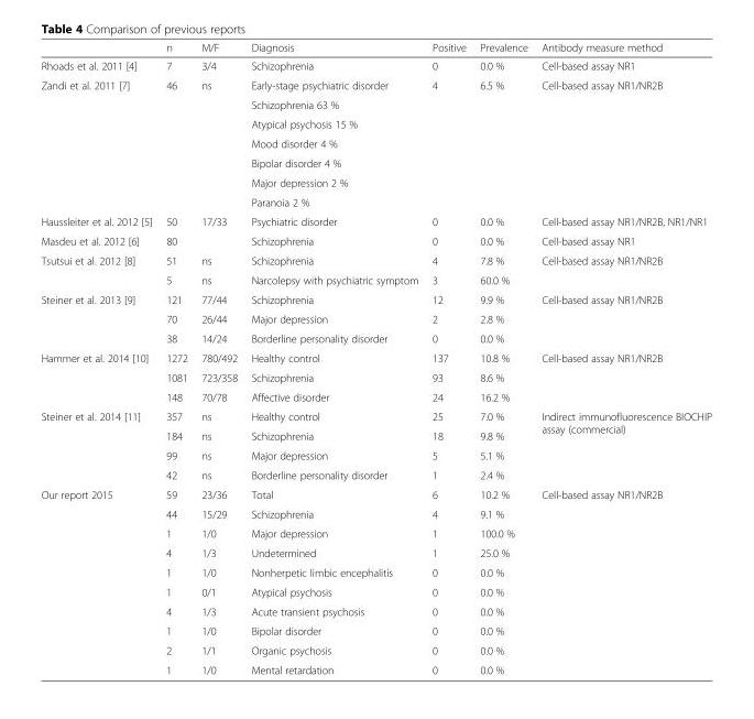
<table><thead><tr><td></td><td>n</td><td>M/F</td><td>Diagnosis</td><td>Positive</td><td>Prevalence</td><td>Antibody measure method</td></tr></thead><tbody><tr><td>Rhoads et al. 2011 [4]</td><td>7</td><td>3/4</td><td>Schizophrenia</td><td>0</td><td>0.0 %</td><td>Cell-based assay NR1</td></tr><tr><td rowspan="7">Zandi et al. 2011 [7]</td><td>46</td><td>ns</td><td>Early-stage psychiatric disorder</td><td>4</td><td>6.5 %</td><td>Cell-based assay NR1/NR2B</td></tr><tr><td></td><td></td><td>Schizophrenia 63 %</td><td></td><td></td><td></td></tr><tr><td></td><td></td><td>Atypical psychosis 15 %</td><td></td><td></td><td></td></tr><tr><td></td><td></td><td>Mood disorder 4 %</td><td></td><td></td><td rowspan="4"></td></tr><tr><td></td><td></td><td>Bipolar disorder 4 %</td><td></td><td></td></tr><tr><td></td><td></td><td>Major depression 2 %</td><td></td><td></td></tr><tr><td></td><td></td><td>Paranoia 2 %</td><td></td><td></td></tr><tr><td>Haussleiter et al. 2012 [5]</td><td>50</td><td>17/33</td><td>Psychiatric disorder</td><td>0</td><td>0.0 %</td><td>Cell-based assay NR1/NR2B, NR1/NR1</td></tr><tr><td>Masdeu et al. 2012 [6]</td><td>80</td><td></td><td>Schizophrenia</td><td>0</td><td>0.0 %</td><td>Cell-based assay NR1</td></tr><tr><td rowspan="2">Tsutsui et al. 2012 [8]</td><td>51</td><td>ns</td><td>Schizophrenia</td><td>4</td><td>7.8 %</td><td rowspan="2">Cell-based assay NR1/NR2B</td></tr><tr><td>5</td><td>ns</td><td>Narcolepsy with psychiatric symptom</td><td>3</td><td>60.0 %</td></tr><tr><td rowspan="3">Steiner et al. 2013 [9]</td><td>121</td><td>77/44</td><td>Schizophrenia</td><td>12</td><td>9.9 %</td><td>Cell-based assay NR1/NR2B</td></tr><tr><td>70</td><td>26/44</td><td>Major depression</td><td>2</td><td>2.8 %</td><td rowspan="2"></td></tr><tr><td>38</td><td>14/24</td><td>Borderline personality disorder</td><td>0</td><td>0.0 %</td></tr><tr><td rowspan="3">Hammer et al. 2014 [10]</td><td>1272</td><td>780/492</td><td>Healthy control</td><td>137</td><td>10.8 %</td><td>Cell-based assay NR1/NR2B</td></tr><tr><td>1081</td><td>723/358</td><td>Schizophrenia</td><td>93</td><td>8.6 %</td><td rowspan="2"></td></tr><tr><td>148</td><td>70/78</td><td>Affective disorder</td><td>24</td><td>16.2 %</td></tr><tr><td rowspan="4">Steiner et al. 2014 [11]</td><td>357</td><td>ns</td><td>Healthy control</td><td>25</td><td>7.0 %</td><td rowspan="4">Indirect immunofluorescence BIOCHIP assay (commercial)</td></tr><tr><td>184</td><td>ns</td><td>Schizophrenia</td><td>18</td><td>9.8 %</td></tr><tr><td>99</td><td>ns</td><td>Major depression</td><td>5</td><td>5.1 %</td></tr><tr><td>42</td><td>ns</td><td>Borderline personality disorder</td><td>1</td><td>2.4 %</td></tr><tr><td rowspan="10">Our report 2015</td><td>59</td><td>23/36</td><td>Total</td><td>6</td><td>10.2 %</td><td>Cell-based assay NR1/NR2B</td></tr><tr><td>44</td><td>15/29</td><td>Schizophrenia</td><td>4</td><td>9.1 %</td><td></td></tr><tr><td>1</td><td>1/0</td><td>Major depression</td><td>1</td><td>100.0 %</td><td></td></tr><tr><td>4</td><td>1/3</td><td>Undetermined</td><td>1</td><td>25.0 %</td><td></td></tr><tr><td>1</td><td>1/0</td><td>Nonherpetic limbic encephalitis</td><td>0</td><td>0.0 %</td><td rowspan="6"></td></tr><tr><td>1</td><td>0/1</td><td>Atypical psychosis</td><td>0</td><td>0.0 %</td></tr><tr><td>4</td><td>1/3</td><td>Acute transient psychosis</td><td>0</td><td>0.0 %</td></tr><tr><td>1</td><td>1/0</td><td>Bipolar disorder</td><td>0</td><td>0.0 %</td></tr><tr><td>2</td><td>1/1</td><td>Organic psychosis</td><td>0</td><td>0.0 %</td></tr><tr><td>1</td><td>1/0</td><td>Mental retardation</td><td>0</td><td>0.0 %</td></tr></tbody></table>